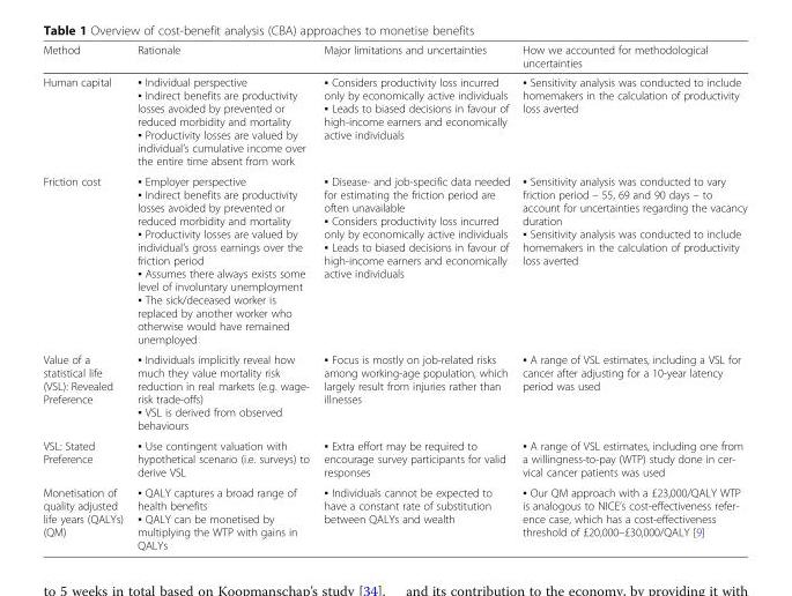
<table><thead><tr><td>Method</td><td>Rationale</td><td>Major limitations and uncertainties</td><td>How we accounted for methodological uncertainties</td></tr></thead><tbody><tr><td>Human capital</td><td>▪ Individual perspective ▪ Indirect benefits are productivity losses avoided by prevented or reduced morbidity and mortality ▪ Productivity losses are valued by individual’s cumulative income over the entire time absent from work</td><td>▪ Considers productivity loss incurred only by economically active individuals ▪ Leads to biased decisions in favour of high-income earners and economically active individuals</td><td>▪ Sensitivity analysis was conducted to include homemakers in the calculation of productivity loss averted</td></tr><tr><td>Friction cost</td><td>▪ Employer perspective ▪ Indirect benefits are productivity losses avoided by prevented or reduced morbidity and mortality ▪ Productivity losses are valued by individual’s gross earnings over the friction period ▪ Assumes there always exists some level of involuntary unemployment ▪ The sick/deceased worker is replaced by another worker who otherwise would have remained unemployed</td><td>▪ Disease- and job-specific data needed for estimating the friction period are often unavailable ▪ Considers productivity loss incurred only by economically active individuals ▪ Leads to biased decisions in favour of high-income earners and economically active individuals</td><td>▪ Sensitivity analysis was conducted to vary friction period – 55, 69 and 90 days – to account for uncertainties regarding the vacancy duration ▪ Sensitivity analysis was conducted to include homemakers in the calculation of productivity loss averted</td></tr><tr><td>Value of a statistical life (VSL): Revealed Preference</td><td>▪ Individuals implicitly reveal how much they value mortality risk reduction in real markets (e.g. wage- risk trade-offs) ▪ VSL is derived from observed behaviours</td><td>▪ Focus is mostly on job-related risks among working-age population, which largely result from injuries rather than illnesses</td><td>▪ A range of VSL estimates, including a VSL for cancer after adjusting for a 10-year latency period was used</td></tr><tr><td>VSL: Stated Preference</td><td>▪ Use contingent valuation with hypothetical scenario (i.e. surveys) to derive VSL</td><td>▪ Extra effort may be required to encourage survey participants for valid responses</td><td>▪ A range of VSL estimates, including one from a willingness-to-pay (WTP) study done in cer- vical cancer patients was used</td></tr><tr><td>Monetisation of quality adjusted life years (QALYs) (QM)</td><td>▪ QALY captures a broad range of health benefits ▪ QALY can be monetised by multiplying the WTP with gains in QALYs</td><td>▪ Individuals cannot be expected to have a constant rate of substitution between QALYs and wealth</td><td>▪ Our QM approach with a £23,000/QALY WTP is analogous to NICE’s cost-effectiveness refer- ence case, which has a cost-effectiveness threshold of £20,000–£30,000/QALY [9]</td></tr></tbody></table>